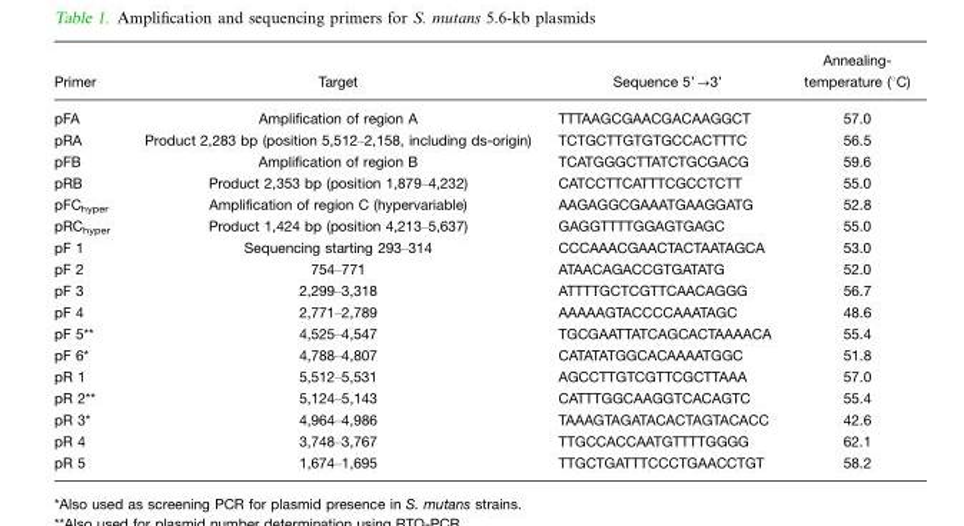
<table><thead><tr><td>Primer</td><td>Target</td><td>Sequence 5’→3’</td><td>Annealing- temperature (°C)</td></tr></thead><tbody><tr><td>pFA</td><td>Amplification of region A</td><td>TTTAAGCGAACGACAAGGCT</td><td>57.0</td></tr><tr><td>pRA</td><td>Product 2,283 bp (position 5,512–2,158, including ds-origin)</td><td>TCTGCTTGTGTGCCACTTTC</td><td>56.5</td></tr><tr><td>pFB</td><td>Amplification of region B</td><td>TCATGGGCTTATCTGCGACG</td><td>59.6</td></tr><tr><td>pRB</td><td>Product 2,353 bp (position 1,879–4,232)</td><td>CATCCTTCATTTCGCCTCTT</td><td>55.0</td></tr><tr><td>pFC<sub>hyper</sub></td><td>Amplification of region C (hypervariable)</td><td>AAGAGGCGAAATGAAGGATG</td><td>52.8</td></tr><tr><td>pRC<sub>hyper</sub></td><td>Product 1,424 bp (position 4,213–5,637)</td><td>GAGGTTTTGGAGTGAGC</td><td>55.0</td></tr><tr><td>pF 1</td><td>Sequencing starting 293–314</td><td>CCCAAACGAACTACTAATAGCA</td><td>53.0</td></tr><tr><td>pF 2</td><td>754–771</td><td>ATAACAGACCGTGATATG</td><td>52.0</td></tr><tr><td>pF 3</td><td>2,299–3,318</td><td>ATTTTGCTCGTTCAACAGGG</td><td>56.7</td></tr><tr><td>pF 4</td><td>2,771–2,789</td><td>AAAAAGTACCCCAAATAGC</td><td>48.6</td></tr><tr><td>pF 5**</td><td>4,525–4,547</td><td>TGCGAATTATCAGCACTAAAACA</td><td>55.4</td></tr><tr><td>pF 6*</td><td>4,788–4,807</td><td>CATATATGGCACAAAATGGC</td><td>51.8</td></tr><tr><td>pR 1</td><td>5,512–5,531</td><td>AGCCTTGTCGTTCGCTTAAA</td><td>57.0</td></tr><tr><td>pR 2**</td><td>5,124–5,143</td><td>CATTTGGCAAGGTCACAGTC</td><td>55.4</td></tr><tr><td>pR 3*</td><td>4,964–4,986</td><td>TAAAGTAGATACACTAGTACACC</td><td>42.6</td></tr><tr><td>pR 4</td><td>3,748–3,767</td><td>TTGCCACCAATGTTTTGGGG</td><td>62.1</td></tr><tr><td>pR 5</td><td>1,674–1,695</td><td>TTGCTGATTTCCCTGAACCTGT</td><td>58.2</td></tr></tbody></table>